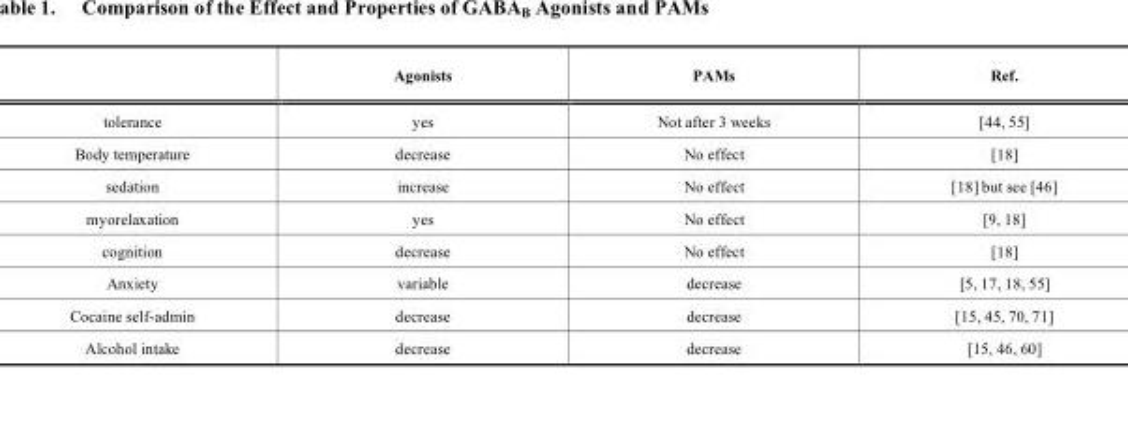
<table><thead><tr><td></td><td>Agonists</td><td>PAMs</td><td>Ref.</td></tr></thead><tbody><tr><td>tolerance</td><td>yes</td><td>Not after 3 weeks</td><td>[44, 55]</td></tr><tr><td>Body temperature</td><td>decrease</td><td>No effect</td><td>[18]</td></tr><tr><td>sedation</td><td>increase</td><td>No effect</td><td>[18] but see [46]</td></tr><tr><td>myorelaxation</td><td>yes</td><td>No effect</td><td>[9, 18]</td></tr><tr><td>cognition</td><td>decrease</td><td>No effect</td><td>[18]</td></tr><tr><td>Anxiety</td><td>variable</td><td>decrease</td><td>[5, 17, 18, 55]</td></tr><tr><td>Cocaine self-admin</td><td>decrease</td><td>decrease</td><td>[15, 45, 70, 71]</td></tr><tr><td>Alcohol intake</td><td>decrease</td><td>decrease</td><td>[15, 46, 60]</td></tr></tbody></table>